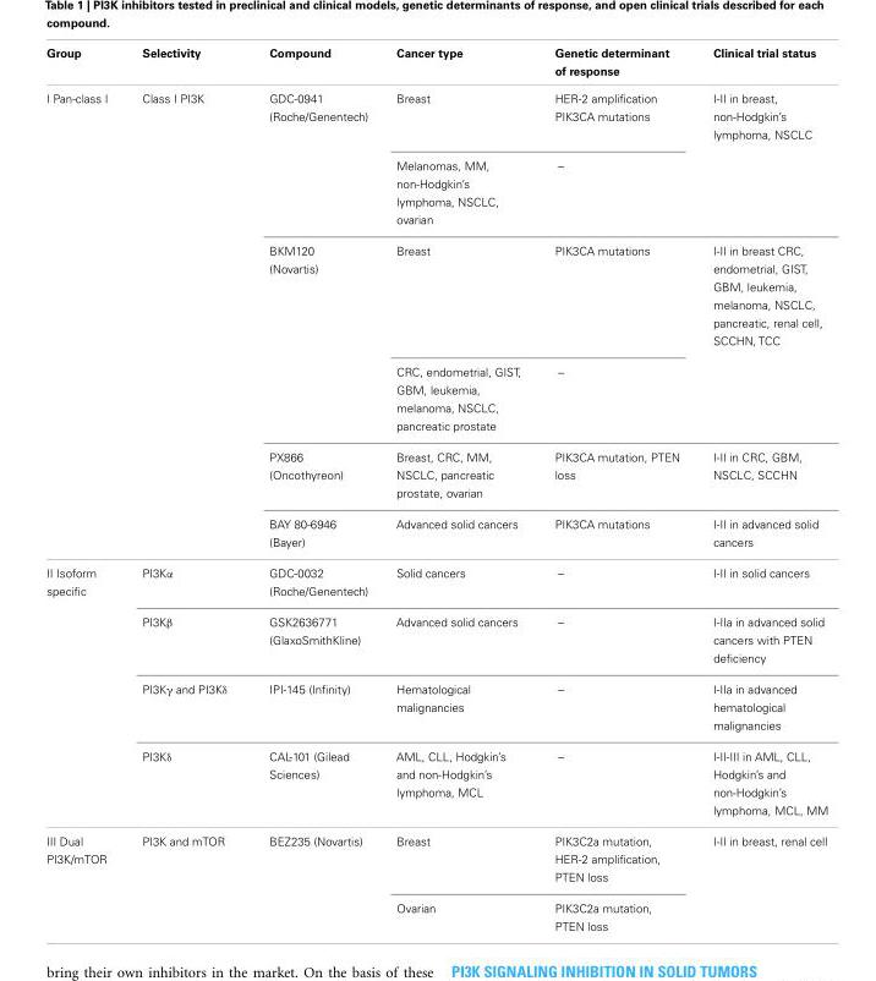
<table><thead><tr><td>Group</td><td>Selectivity</td><td>Compound</td><td>Cancer type</td><td>Genetic determinant of response</td><td>Clinical trial status</td></tr></thead><tbody><tr><td rowspan="6">I Pan-class I</td><td>Class I PI3K</td><td>GDC-0941 (Roche/Genentech)</td><td>Breast</td><td>HER-2 amplification PIK3CA mutations</td><td>I-II in breast, non-Hodgkin’s lymphoma, NSCLC</td></tr><tr><td></td><td></td><td>Melanomas, MM, non-Hodgkin’s lymphoma, NSCLC, ovarian</td><td>–</td><td></td></tr><tr><td></td><td>BKM120 (Novartis)</td><td>Breast</td><td>PIK3CA mutations</td><td>I-II in breast CRC, endometrial, GIST, GBM, leukemia, melanoma, NSCLC, pancreatic, renal cell, SCCHN, TCC</td></tr><tr><td></td><td></td><td>CRC, endometrial, GIST, GBM, leukemia, melanoma, NSCLC, pancreatic prostate</td><td>–</td><td></td></tr><tr><td></td><td>PX866 (Oncothyreon)</td><td>Breast, CRC, MM, NSCLC, pancreatic prostate, ovarian</td><td>PIK3CA mutation, PTEN loss</td><td>I-II in CRC, GBM, NSCLC, SCCHN</td></tr><tr><td></td><td>BAY 80-6946 (Bayer)</td><td>Advanced solid cancers</td><td>PIK3CA mutations</td><td>I-II in advanced solid cancers</td></tr><tr><td rowspan="4">II Isoform specific</td><td>PI3Kα</td><td>GDC-0032 (Roche/Genentech)</td><td>Solid cancers</td><td>–</td><td>I-II in solid cancers</td></tr><tr><td>PI3Kβ</td><td>GSK2636771 (GlaxoSmithKline)</td><td>Advanced solid cancers</td><td>–</td><td>I-IIa in advanced solid cancers with PTEN deficiency</td></tr><tr><td>PI3Kγ and PI3Kδ</td><td>IPI-145 (Infinity)</td><td>Hematological malignancies</td><td>–</td><td>I-IIa in advanced hematological malignancies</td></tr><tr><td>PI3Kδ</td><td>CAL-101 (Gilead Sciences)</td><td>AML, CLL, Hodgkin’s and non-Hodgkin’s lymphoma, MCL</td><td>–</td><td>I-II-III in AML, CLL, Hodgkin’s and non-Hodgkin’s lymphoma, MCL, MM</td></tr><tr><td rowspan="2">III Dual PI3K/mTOR</td><td>PI3K and mTOR</td><td>BEZ235 (Novartis)</td><td>Breast</td><td>PIK3C2a mutation, HER-2 amplification, PTEN loss</td><td>I-II in breast, renal cell</td></tr><tr><td></td><td></td><td>Ovarian</td><td>PIK3C2a mutation, PTEN loss</td><td></td></tr></tbody></table>